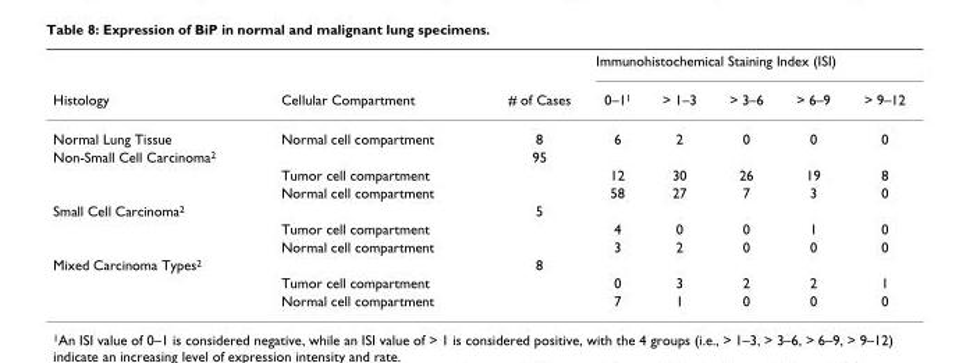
<table><thead><tr><td rowspan="2">Histology</td><td rowspan="2">Cellular Compartment</td><td rowspan="2"># of Cases</td><td colspan="5">Immunohistochemical Staining Index (ISI)</td></tr><tr><td>0–1<sup>1</sup></td><td>&gt; 1–3</td><td>&gt; 3–6</td><td>&gt; 6–9</td><td>&gt; 9–12</td></tr></thead><tbody><tr><td>Normal Lung Tissue</td><td>Normal cell compartment</td><td>8</td><td>6</td><td>2</td><td>0</td><td>0</td><td>0</td></tr><tr><td rowspan="3">Non-Small Cell Carcinoma<sup>2</sup></td><td></td><td>95</td><td></td><td></td><td></td><td></td><td></td></tr><tr><td>Tumor cell compartment</td><td></td><td>12</td><td>30</td><td>26</td><td>19</td><td>8</td></tr><tr><td>Normal cell compartment</td><td></td><td>58</td><td>27</td><td>7</td><td>3</td><td>0</td></tr><tr><td rowspan="3">Small Cell Carcinoma<sup>2</sup></td><td></td><td>5</td><td></td><td></td><td></td><td></td><td></td></tr><tr><td>Tumor cell compartment</td><td></td><td>4</td><td>0</td><td>0</td><td>1</td><td>0</td></tr><tr><td>Normal cell compartment</td><td></td><td>3</td><td>2</td><td>0</td><td>0</td><td>0</td></tr><tr><td rowspan="3">Mixed Carcinoma Types<sup>2</sup></td><td></td><td>8</td><td></td><td></td><td></td><td></td><td></td></tr><tr><td>Tumor cell compartment</td><td></td><td>0</td><td>3</td><td>2</td><td>2</td><td>1</td></tr><tr><td>Normal cell compartment</td><td></td><td>7</td><td>1</td><td>0</td><td>0</td><td>0</td></tr></tbody></table>